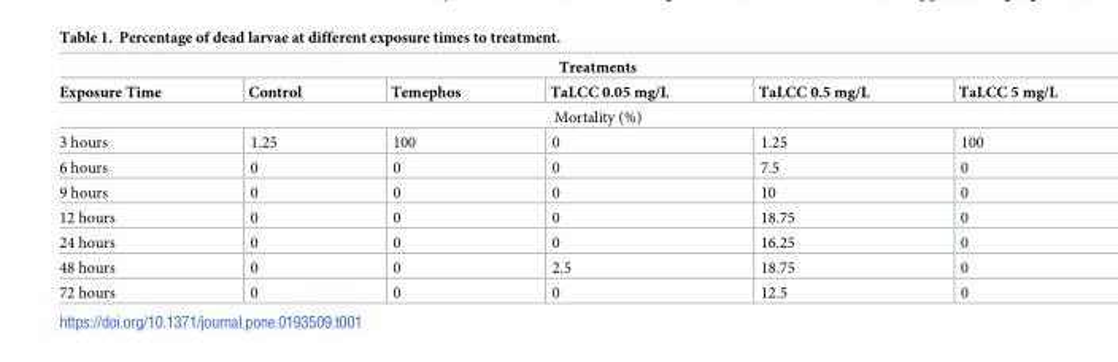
<table><thead><tr><td colspan="6">Treatments</td></tr><tr><td>Exposure Time</td><td>Control</td><td>Temephos</td><td>TaLCC 0.05 mg/L</td><td>TaLCC 0.5 mg/L</td><td>TaLCC 5 mg/L</td></tr></thead><tbody><tr><td colspan="6">Mortality (%)</td></tr><tr><td>3 hours</td><td>1.25</td><td>100</td><td>0</td><td>1.25</td><td>100</td></tr><tr><td>6 hours</td><td>0</td><td>0</td><td>0</td><td>7.5</td><td>0</td></tr><tr><td>9 hours</td><td>0</td><td>0</td><td>0</td><td>10</td><td>0</td></tr><tr><td>12 hours</td><td>0</td><td>0</td><td>0</td><td>18.75</td><td>0</td></tr><tr><td>24 hours</td><td>0</td><td>0</td><td>0</td><td>16.25</td><td>0</td></tr><tr><td>48 hours</td><td>0</td><td>0</td><td>2.5</td><td>18.75</td><td>0</td></tr><tr><td>72 hours</td><td>0</td><td>0</td><td>0</td><td>12.5</td><td>0</td></tr></tbody></table>